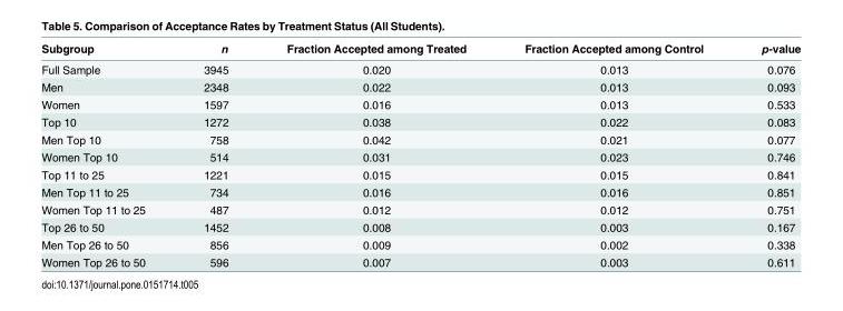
<table><thead><tr><td>Subgroup</td><td>n</td><td>Fraction Accepted among Treated</td><td>Fraction Accepted among Control</td><td>p-value</td></tr></thead><tbody><tr><td>Full Sample</td><td>3945</td><td>0.020</td><td>0.013</td><td>0.076</td></tr><tr><td>Men</td><td>2348</td><td>0.022</td><td>0.013</td><td>0.093</td></tr><tr><td>Women</td><td>1597</td><td>0.016</td><td>0.013</td><td>0.533</td></tr><tr><td>Top 10</td><td>1272</td><td>0.038</td><td>0.022</td><td>0.083</td></tr><tr><td>Men Top 10</td><td>758</td><td>0.042</td><td>0.021</td><td>0.077</td></tr><tr><td>Women Top 10</td><td>514</td><td>0.031</td><td>0.023</td><td>0.746</td></tr><tr><td>Top 11 to 25</td><td>1221</td><td>0.015</td><td>0.015</td><td>0.841</td></tr><tr><td>Men Top 11 to 25</td><td>734</td><td>0.016</td><td>0.016</td><td>0.851</td></tr><tr><td>Women Top 11 to 25</td><td>487</td><td>0.012</td><td>0.012</td><td>0.751</td></tr><tr><td>Top 26 to 50</td><td>1452</td><td>0.008</td><td>0.003</td><td>0.167</td></tr><tr><td>Men Top 26 to 50</td><td>856</td><td>0.009</td><td>0.002</td><td>0.338</td></tr><tr><td>Women Top 26 to 50</td><td>596</td><td>0.007</td><td>0.003</td><td>0.611</td></tr></tbody></table>